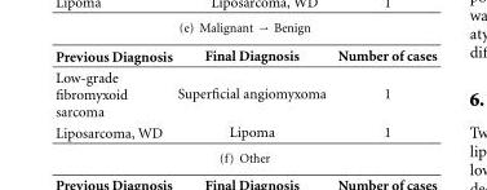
<table><thead><tr><td>Previous Diagnosis</td><td>Final Diagnosis</td><td>Number of cases</td></tr></thead><tbody><tr><td>Low-grade fibromyxoid sarcoma</td><td>Superficial angiomyxoma</td><td>1</td></tr><tr><td>Liposarcoma, WD</td><td>Lipoma</td><td>1</td></tr></tbody></table>